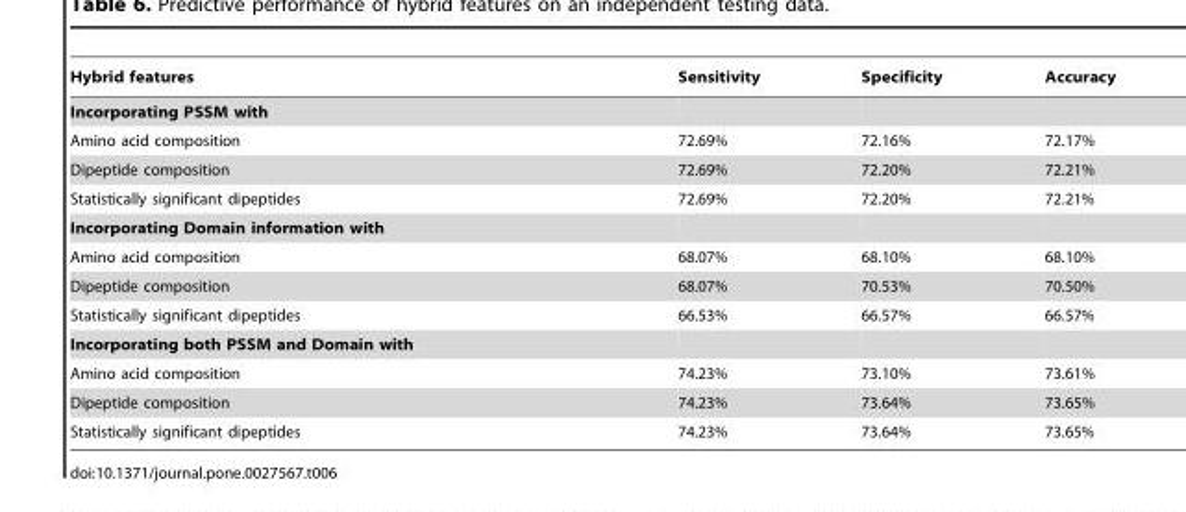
<table><thead><tr><td>Hybrid features</td><td>Sensitivity</td><td>Specificity</td><td>Accuracy</td></tr></thead><tbody><tr><td colspan="4">Incorporating PSSM with</td></tr><tr><td>Amino acid composition</td><td>72.69%</td><td>72.16%</td><td>72.17%</td></tr><tr><td>Dipeptide composition</td><td>72.69%</td><td>72.20%</td><td>72.21%</td></tr><tr><td>Statistically significant dipeptides</td><td>72.69%</td><td>72.20%</td><td>72.21%</td></tr><tr><td colspan="4">Incorporating Domain information with</td></tr><tr><td>Amino acid composition</td><td>68.07%</td><td>68.10%</td><td>68.10%</td></tr><tr><td>Dipeptide composition</td><td>68.07%</td><td>70.53%</td><td>70.50%</td></tr><tr><td>Statistically significant dipeptides</td><td>66.53%</td><td>66.57%</td><td>66.57%</td></tr><tr><td colspan="4">Incorporating both PSSM and Domain with</td></tr><tr><td>Amino acid composition</td><td>74.23%</td><td>73.10%</td><td>73.61%</td></tr><tr><td>Dipeptide composition</td><td>74.23%</td><td>73.64%</td><td>73.65%</td></tr><tr><td>Statistically significant dipeptides</td><td>74.23%</td><td>73.64%</td><td>73.65%</td></tr></tbody></table>